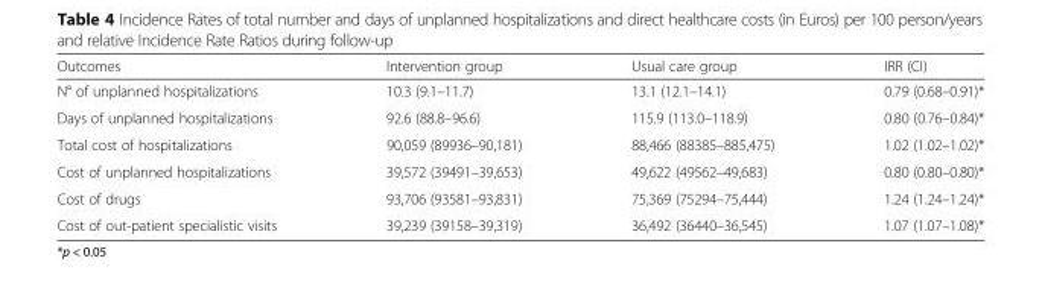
<table><thead><tr><td>Outcomes</td><td>Intervention group</td><td>Usual care group</td><td>IRR (CI)</td></tr></thead><tbody><tr><td>N° of unplanned hospitalizations</td><td>10.3 (9.1–11.7)</td><td>13.1 (12.1–14.1)</td><td>0.79 (0.68–0.91)*</td></tr><tr><td>Days of unplanned hospitalizations</td><td>92.6 (88.8–96.6)</td><td>115.9 (113.0–118.9)</td><td>0.80 (0.76–0.84)*</td></tr><tr><td>Total cost of hospitalizations</td><td>90,059 (89936–90,181)</td><td>88,466 (88385–885,475)</td><td>1.02 (1.02–1.02)*</td></tr><tr><td>Cost of unplanned hospitalizations</td><td>39,572 (39491–39,653)</td><td>49,622 (49562–49,683)</td><td>0.80 (0.80–0.80)*</td></tr><tr><td>Cost of drugs</td><td>93,706 (93581–93,831)</td><td>75,369 (75294–75,444)</td><td>1.24 (1.24–1.24)*</td></tr><tr><td>Cost of out-patient specialistic visits</td><td>39,239 (39158–39,319)</td><td>36,492 (36440–36,545)</td><td>1.07 (1.07–1.08)*</td></tr></tbody></table>